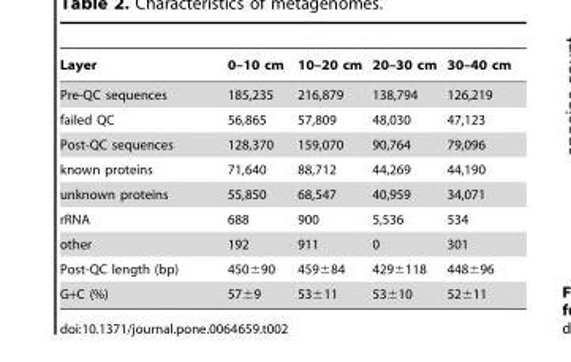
<table><thead><tr><td>Layer</td><td>0–10 cm</td><td>10–20 cm</td><td>20–30 cm</td><td>30–40 cm</td></tr></thead><tbody><tr><td>Pre-QC sequences</td><td>185,235</td><td>216,879</td><td>138,794</td><td>126,219</td></tr><tr><td>failed QC</td><td>56,865</td><td>57,809</td><td>48,030</td><td>47,123</td></tr><tr><td>Post-QC sequences</td><td>128,370</td><td>159,070</td><td>90,764</td><td>79,096</td></tr><tr><td>known proteins</td><td>71,640</td><td>88,712</td><td>44,269</td><td>44,190</td></tr><tr><td>unknown proteins</td><td>55,850</td><td>68,547</td><td>40,959</td><td>34,071</td></tr><tr><td>rRNA</td><td>688</td><td>900</td><td>5,536</td><td>534</td></tr><tr><td>other</td><td>192</td><td>911</td><td>0</td><td>301</td></tr><tr><td>Post-QC length (bp)</td><td>450±90</td><td>459±84</td><td>429±118</td><td>448±96</td></tr><tr><td>G+C (%)</td><td>57±9</td><td>53±11</td><td>53±10</td><td>52±11</td></tr></tbody></table>